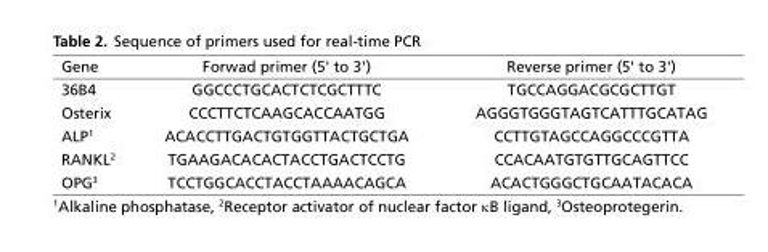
<table><thead><tr><td>Gene</td><td>Forwad primer (5&#x27; to 3&#x27;)</td><td>Reverse primer (5&#x27; to 3&#x27;)</td></tr></thead><tbody><tr><td>36B4</td><td>GGCCCTGCACTCTCGCTTTC</td><td>TGCCAGGACGCGCTTGT</td></tr><tr><td>Osterix</td><td>CCCTTCTCAAGCACCAATGG</td><td>AGGGTGGGTAGTCATTTGCATAG</td></tr><tr><td>ALP<sup>1</sup></td><td>ACACCTTGACTGTGGTTACTGCTGA</td><td>CCTTGTAGCCAGGCCCGTTA</td></tr><tr><td>RANKL<sup>2</sup></td><td>TGAAGACACACTACCTGACTCCTG</td><td>CCACAATGTGTTGCAGTTCC</td></tr><tr><td>OPG<sup>3</sup></td><td>TCCTGGCACCTACCTAAAACAGCA</td><td>ACACTGGGCTGCAATACACA</td></tr></tbody></table>